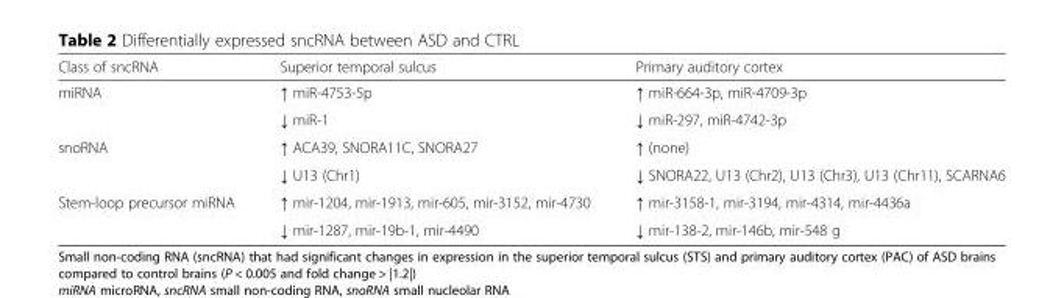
<table><thead><tr><td>Class of sncRNA</td><td>Superior temporal sulcus</td><td>Primary auditory cortex</td></tr></thead><tbody><tr><td rowspan="2">miRNA</td><td>↑ miR-4753-5p</td><td>↑ miR-664-3p, miR-4709-3p</td></tr><tr><td>↓ miR-1</td><td>↓ miR-297, miR-4742-3p</td></tr><tr><td rowspan="2">snoRNA</td><td>↑ ACA39, SNORA11C, SNORA27</td><td>↑ (none)</td></tr><tr><td>↓ U13 (Chr1)</td><td>↓ SNORA22, U13 (Chr2), U13 (Chr3), U13 (Chr11), SCARNA6</td></tr><tr><td rowspan="2">Stem-loop precursor miRNA</td><td>↑ mir-1204, mir-1913, mir-605, mir-3152, mir-4730</td><td>↑ mir-3158-1, mir-3194, mir-4314, mir-4436a</td></tr><tr><td>↓ mir-1287, mir-19b-1, mir-4490</td><td>↓ mir-138-2, mir-146b, mir-548 g</td></tr></tbody></table>